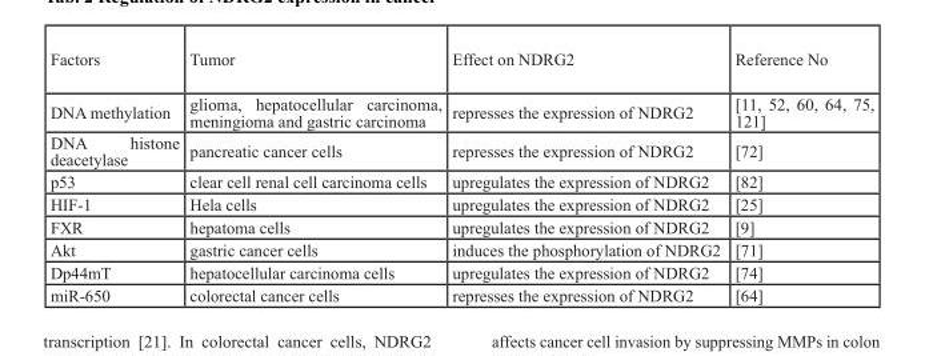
<table><thead><tr><td>Factors</td><td>Tumor</td><td>Effect on NDRG2</td><td>Reference No</td></tr></thead><tbody><tr><td>DNA methylation</td><td>glioma, hepatocellular carcinoma, meningioma and gastric carcinoma</td><td>represses the expression of NDRG2</td><td>[11, 52, 60, 64, 75, 121]</td></tr><tr><td>DNA histone deacetylase</td><td>pancreatic cancer cells</td><td>represses the expression of NDRG2</td><td>[72]</td></tr><tr><td>p53</td><td>clear cell renal cell carcinoma cells</td><td>upregulates the expression of NDRG2</td><td>[82]</td></tr><tr><td>HIF-1</td><td>Hela cells</td><td>upregulates the expression of NDRG2</td><td>[25]</td></tr><tr><td>FXR</td><td>hepatoma cells</td><td>upregulates the expression of NDRG2</td><td>[9]</td></tr><tr><td>Akt</td><td>gastric cancer cells</td><td>induces the phosphorylation of NDRG2</td><td>[71]</td></tr><tr><td>Dp44mT</td><td>hepatocellular carcinoma cells</td><td>upregulates the expression of NDRG2</td><td>[74]</td></tr><tr><td>miR-650</td><td>colorectal cancer cells</td><td>represses the expression of NDRG2</td><td>[64]</td></tr></tbody></table>